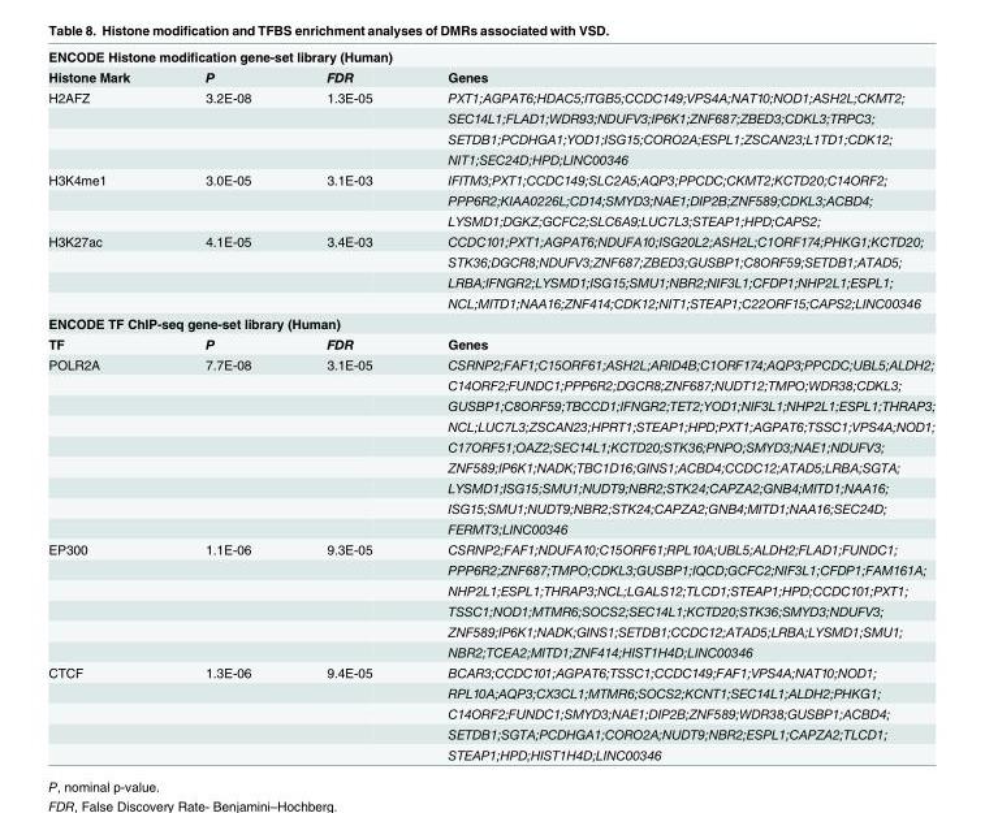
<table><tbody><tr><td colspan="4">ENCODE Histone modification gene-set library (Human)</td></tr><tr><td>Histone Mark</td><td>P</td><td>FDR</td><td>Genes</td></tr><tr><td rowspan="4">H2AFZ</td><td>3.2E-08</td><td>1.3E-05</td><td>PXT1;AGPAT6;HDAC5;ITGB5;CCDC149;VPS4A;NAT10;NOD1;ASH2L;CKMT2;</td></tr><tr><td></td><td></td><td>SEC14L1;FLAD1;WDR93;NDUFV3;IP6K1;ZNF687;ZBED3;CDKL3;TRPC3;</td></tr><tr><td></td><td></td><td>SETDB1;PCDHGA1;YOD1;ISG15;CORO2A;ESPL1;ZSCAN23;L1TD1;CDK12;</td></tr><tr><td></td><td></td><td>NIT1;SEC24D;HPD;LINC00346</td></tr><tr><td rowspan="3">H3K4me1</td><td>3.0E-05</td><td>3.1E-03</td><td>IFITM3;PXT1;CCDC149;SLC2A5;AQP3;PPCDC;CKMT2;KCTD20;C14ORF2;</td></tr><tr><td></td><td></td><td>PPP6R2;KIAA0226L;CD14;SMYD3;NAE1;DIP2B;ZNF589;CDKL3;ACBD4;</td></tr><tr><td></td><td></td><td>LYSMD1;DGKZ;GCFC2;SLC6A9;LUC7L3;STEAP1;HPD;CAPS2;</td></tr><tr><td rowspan="4">H3K27ac</td><td>4.1E-05</td><td>3.4E-03</td><td>CCDC101;PXT1;AGPAT6;NDUFA10;ISG20L2;ASH2L;C1ORF174;PHKG1;KCTD20;</td></tr><tr><td></td><td></td><td>STK36;DGCR8;NDUFV3;ZNF687;ZBED3;GUSBP1;C8ORF59;SETDB1;ATAD5;</td></tr><tr><td></td><td></td><td>LRBA;IFNGR2;LYSMD1;ISG15;SMU1;NBR2;NIF3L1;CFDP1;NHP2L1;ESPL1;</td></tr><tr><td></td><td></td><td>NCL;MITD1;NAA16;ZNF414;CDK12;NIT1;STEAP1;C22ORF15;CAPS2;LINC00346</td></tr><tr><td colspan="4">ENCODE TF ChIP-seq gene-set library (Human)</td></tr><tr><td>TF</td><td>P</td><td>FDR</td><td>Genes</td></tr><tr><td rowspan="9">POLR2A</td><td>7.7E-08</td><td>3.1E-05</td><td>CSRNP2;FAF1;C15ORF61;ASH2L;ARID4B;C1ORF174;AQP3;PPCDC;UBL5;ALDH2;</td></tr><tr><td></td><td></td><td>C14ORF2;FUNDC1;PPP6R2;DGCR8;ZNF687;NUDT12;TMPO;WDR38;CDKL3;</td></tr><tr><td></td><td></td><td>GUSBP1;C8ORF59;TBCCD1;IFNGR2;TET2;YOD1;NIF3L1;NHP2L1;ESPL1;THRAP3;</td></tr><tr><td></td><td></td><td>NCL;LUC7L3;ZSCAN23;HPRT1;STEAP1;HPD;PXT1;AGPAT6;TSSC1;VPS4A;NOD1;</td></tr><tr><td></td><td></td><td>C17ORF51;OAZ2;SEC14L1;KCTD20;STK36;PNPO;SMYD3;NAE1;NDUFV3;</td></tr><tr><td></td><td></td><td>ZNF589;IP6K1;NADK;TBC1D16;GINS1;ACBD4;CCDC12;ATAD5;LRBA;SGTA;</td></tr><tr><td></td><td></td><td>LYSMD1;ISG15;SMU1;NUDT9;NBR2;STK24;CAPZA2;GNB4;MITD1;NAA16;</td></tr><tr><td></td><td></td><td>ISG15;SMU1;NUDT9;NBR2;STK24;CAPZA2;GNB4;MITD1;NAA16;SEC24D;</td></tr><tr><td></td><td></td><td>FERMT3;LINC00346</td></tr><tr><td rowspan="6">EP300</td><td>1.1E-06</td><td>9.3E-05</td><td>CSRNP2;FAF1;NDUFA10;C15ORF61;RPL10A;UBL5;ALDH2;FLAD1;FUNDC1;</td></tr><tr><td></td><td></td><td>PPP6R2;ZNF687;TMPO;CDKL3;GUSBP1;IQCD;GCFC2;NIF3L1;CFDP1;FAM161A;</td></tr><tr><td></td><td></td><td>NHP2L1;ESPL1;THRAP3;NCL;LGALS12;TLCD1;STEAP1;HPD;CCDC101;PXT1;</td></tr><tr><td></td><td></td><td>TSSC1;NOD1;MTMR6;SOCS2;SEC14L1;KCTD20;STK36;SMYD3;NDUFV3;</td></tr><tr><td></td><td></td><td>ZNF589;IP6K1;NADK;GINS1;SETDB1;CCDC12;ATAD5;LRBA;LYSMD1;SMU1;</td></tr><tr><td></td><td></td><td>NBR2;TCEA2;MITD1;ZNF414;HIST1H4D;LINC00346</td></tr><tr><td rowspan="5">CTCF</td><td>1.3E-06</td><td>9.4E-05</td><td>BCAR3;CCDC101;AGPAT6;TSSC1;CCDC149;FAF1;VPS4A;NAT10;NOD1;</td></tr><tr><td></td><td></td><td>RPL10A;AQP3;CX3CL1;MTMR6;SOCS2;KCNT1;SEC14L1;ALDH2;PHKG1;</td></tr><tr><td></td><td></td><td>C14ORF2;FUNDC1;SMYD3;NAE1;DIP2B;ZNF589;WDR38;GUSBP1;ACBD4;</td></tr><tr><td></td><td></td><td>SETDB1;SGTA;PCDHGA1;CORO2A;NUDT9;NBR2;ESPL1;CAPZA2;TLCD1;</td></tr><tr><td></td><td></td><td>STEAP1;HPD;HIST1H4D;LINC00346</td></tr></tbody></table>